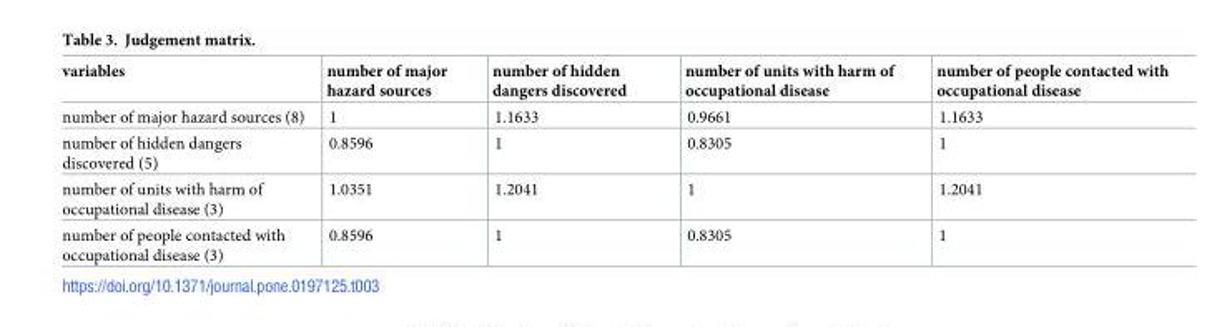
<table><thead><tr><td>variables</td><td>number of major hazard sources</td><td>number of hidden dangers discovered</td><td>number of units with harm of occupational disease</td><td>number of people contacted with occupational disease</td></tr></thead><tbody><tr><td>number of major hazard sources (8)</td><td>1</td><td>1.1633</td><td>0.9661</td><td>1.1633</td></tr><tr><td>number of hidden dangers discovered (5)</td><td>0.8596</td><td>1</td><td>0.8305</td><td>1</td></tr><tr><td>number of units with harm of occupational disease (3)</td><td>1.0351</td><td>1.2041</td><td>1</td><td>1.2041</td></tr><tr><td>number of people contacted with occupational disease (3)</td><td>0.8596</td><td>1</td><td>0.8305</td><td>1</td></tr></tbody></table>